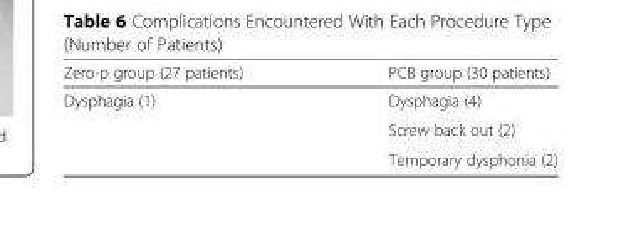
<table><thead><tr><td>Zero-p group (27 patients)</td><td>PCB group (30 patients)</td></tr></thead><tbody><tr><td rowspan="3">Dysphagia (1)</td><td>Dysphagia (4)</td></tr><tr><td>Screw back out (2)</td></tr><tr><td>Temporary dysphonia (2)</td></tr></tbody></table>